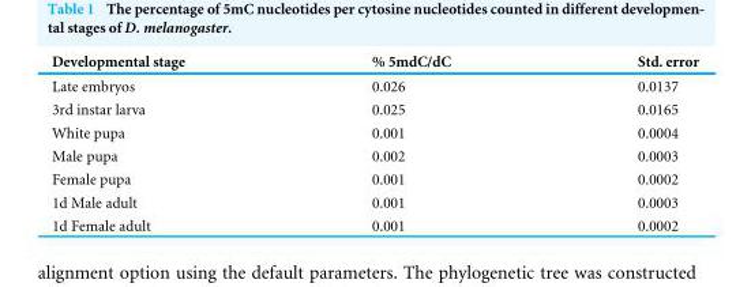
<table><thead><tr><td>Developmental stage</td><td>% 5mdC/dC</td><td>Std. error</td></tr></thead><tbody><tr><td>Late embryos</td><td>0.026</td><td>0.0137</td></tr><tr><td>3rd instar larva</td><td>0.025</td><td>0.0165</td></tr><tr><td>White pupa</td><td>0.001</td><td>0.0004</td></tr><tr><td>Male pupa</td><td>0.002</td><td>0.0003</td></tr><tr><td>Female pupa</td><td>0.001</td><td>0.0002</td></tr><tr><td>1d Male adult</td><td>0.001</td><td>0.0003</td></tr><tr><td>1d Female adult</td><td>0.001</td><td>0.0002</td></tr></tbody></table>